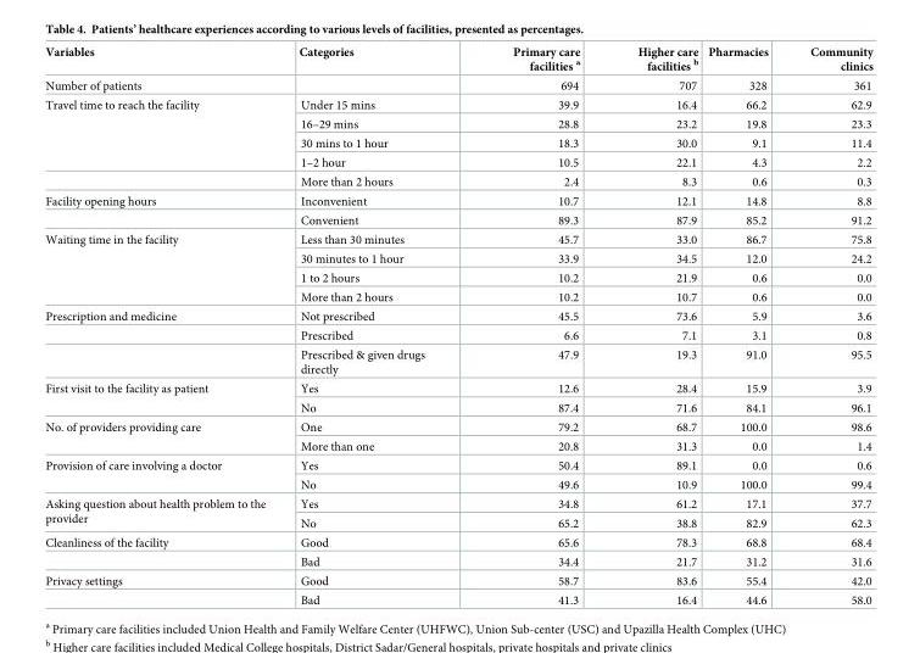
<table><thead><tr><td>Variables</td><td>Categories</td><td>Primary care facilities <sup>a</sup></td><td>Higher care facilities <sup>b</sup></td><td>Pharmacies</td><td>Community clinics</td></tr></thead><tbody><tr><td>Number of patients</td><td></td><td>694</td><td>707</td><td>328</td><td>361</td></tr><tr><td rowspan="5">Travel time to reach the facility</td><td>Under 15 mins</td><td>39.9</td><td>16.4</td><td>66.2</td><td>62.9</td></tr><tr><td>16–29 mins</td><td>28.8</td><td>23.2</td><td>19.8</td><td>23.3</td></tr><tr><td>30 mins to 1 hour</td><td>18.3</td><td>30.0</td><td>9.1</td><td>11.4</td></tr><tr><td>1–2 hour</td><td>10.5</td><td>22.1</td><td>4.3</td><td>2.2</td></tr><tr><td>More than 2 hours</td><td>2.4</td><td>8.3</td><td>0.6</td><td>0.3</td></tr><tr><td rowspan="2">Facility opening hours</td><td>Inconvenient</td><td>10.7</td><td>12.1</td><td>14.8</td><td>8.8</td></tr><tr><td>Convenient</td><td>89.3</td><td>87.9</td><td>85.2</td><td>91.2</td></tr><tr><td rowspan="4">Waiting time in the facility</td><td>Less than 30 minutes</td><td>45.7</td><td>33.0</td><td>86.7</td><td>75.8</td></tr><tr><td>30 minutes to 1 hour</td><td>33.9</td><td>34.5</td><td>12.0</td><td>24.2</td></tr><tr><td>1 to 2 hours</td><td>10.2</td><td>21.9</td><td>0.6</td><td>0.0</td></tr><tr><td>More than 2 hours</td><td>10.2</td><td>10.7</td><td>0.6</td><td>0.0</td></tr><tr><td rowspan="3">Prescription and medicine</td><td>Not prescribed</td><td>45.5</td><td>73.6</td><td>5.9</td><td>3.6</td></tr><tr><td>Prescribed</td><td>6.6</td><td>7.1</td><td>3.1</td><td>0.8</td></tr><tr><td>Prescribed &amp; given drugs directly</td><td>47.9</td><td>19.3</td><td>91.0</td><td>95.5</td></tr><tr><td rowspan="2">First visit to the facility as patient</td><td>Yes</td><td>12.6</td><td>28.4</td><td>15.9</td><td>3.9</td></tr><tr><td>No</td><td>87.4</td><td>71.6</td><td>84.1</td><td>96.1</td></tr><tr><td rowspan="2">No. of providers providing care</td><td>One</td><td>79.2</td><td>68.7</td><td>100.0</td><td>98.6</td></tr><tr><td>More than one</td><td>20.8</td><td>31.3</td><td>0.0</td><td>1.4</td></tr><tr><td rowspan="2">Provision of care involving a doctor</td><td>Yes</td><td>50.4</td><td>89.1</td><td>0.0</td><td>0.6</td></tr><tr><td>No</td><td>49.6</td><td>10.9</td><td>100.0</td><td>99.4</td></tr><tr><td rowspan="2">Asking question about health problem to the provider</td><td>Yes</td><td>34.8</td><td>61.2</td><td>17.1</td><td>37.7</td></tr><tr><td>No</td><td>65.2</td><td>38.8</td><td>82.9</td><td>62.3</td></tr><tr><td rowspan="2">Cleanliness of the facility</td><td>Good</td><td>65.6</td><td>78.3</td><td>68.8</td><td>68.4</td></tr><tr><td>Bad</td><td>34.4</td><td>21.7</td><td>31.2</td><td>31.6</td></tr><tr><td rowspan="2">Privacy settings</td><td>Good</td><td>58.7</td><td>83.6</td><td>55.4</td><td>42.0</td></tr><tr><td>Bad</td><td>41.3</td><td>16.4</td><td>44.6</td><td>58.0</td></tr></tbody></table>